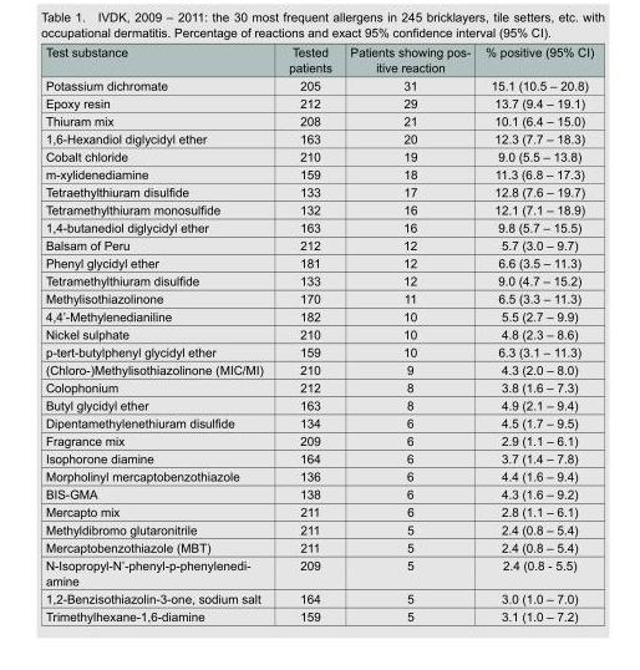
<table><thead><tr><td>Test substance</td><td>Tested patients</td><td>Patients showing pos- itive reaction</td><td>% positive (95% CI)</td></tr></thead><tbody><tr><td>Potassium dichromate</td><td>205</td><td>31</td><td>15.1 (10.5 – 20.8)</td></tr><tr><td>Epoxy resin</td><td>212</td><td>29</td><td>13.7 (9.4 – 19.1)</td></tr><tr><td>Thiuram mix</td><td>208</td><td>21</td><td>10.1 (6.4 – 15.0)</td></tr><tr><td>1,6-Hexandiol diglycidyl ether</td><td>163</td><td>20</td><td>12.3 (7.7 – 18.3)</td></tr><tr><td>Cobalt chloride</td><td>210</td><td>19</td><td>9.0 (5.5 – 13.8)</td></tr><tr><td>m-xylidenediamine</td><td>159</td><td>18</td><td>11.3 (6.8 – 17.3)</td></tr><tr><td>Tetraethylthiuram disulfide</td><td>133</td><td>17</td><td>12.8 (7.6 – 19.7)</td></tr><tr><td>Tetramethylthiuram monosulfide</td><td>132</td><td>16</td><td>12.1 (7.1 – 18.9)</td></tr><tr><td>1,4-butanediol diglycidyl ether</td><td>163</td><td>16</td><td>9.8 (5.7 – 15.5)</td></tr><tr><td>Balsam of Peru</td><td>212</td><td>12</td><td>5.7 (3.0 – 9.7)</td></tr><tr><td>Phenyl glycidyl ether</td><td>181</td><td>12</td><td>6.6 (3.5 – 11.3)</td></tr><tr><td>Tetramethylthiuram disulfide</td><td>133</td><td>12</td><td>9.0 (4.7 – 15.2)</td></tr><tr><td>Methylisothiazolinone</td><td>170</td><td>11</td><td>6.5 (3.3 – 11.3)</td></tr><tr><td>4,4’-Methylenedianiline</td><td>182</td><td>10</td><td>5.5 (2.7 – 9.9)</td></tr><tr><td>Nickel sulphate</td><td>210</td><td>10</td><td>4.8 (2.3 – 8.6)</td></tr><tr><td>p-tert-butylphenyl glycidyl ether</td><td>159</td><td>10</td><td>6.3 (3.1 – 11.3)</td></tr><tr><td>(Chloro-)Methylisothiazolinone (MIC/MI)</td><td>210</td><td>9</td><td>4.3 (2.0 – 8.0)</td></tr><tr><td>Colophonium</td><td>212</td><td>8</td><td>3.8 (1.6 – 7.3)</td></tr><tr><td>Butyl glycidyl ether</td><td>163</td><td>8</td><td>4.9 (2.1 – 9.4)</td></tr><tr><td>Dipentamethylenethiuram disulfide</td><td>134</td><td>6</td><td>4.5 (1.7 – 9.5)</td></tr><tr><td>Fragrance mix</td><td>209</td><td>6</td><td>2.9 (1.1 – 6.1)</td></tr><tr><td>Isophorone diamine</td><td>164</td><td>6</td><td>3.7 (1.4 – 7.8)</td></tr><tr><td>Morpholinyl mercaptobenzothiazole</td><td>136</td><td>6</td><td>4.4 (1.6 – 9.4)</td></tr><tr><td>BIS-GMA</td><td>138</td><td>6</td><td>4.3 (1.6 – 9.2)</td></tr><tr><td>Mercapto mix</td><td>211</td><td>6</td><td>2.8 (1.1 – 6.1)</td></tr><tr><td>Methyldibromo glutaronitrile</td><td>211</td><td>5</td><td>2.4 (0.8 – 5.4)</td></tr><tr><td>Mercaptobenzothiazole (MBT)</td><td>211</td><td>5</td><td>2.4 (0.8 – 5.4)</td></tr><tr><td>N-Isopropyl-N’-phenyl-p-phenylenedi- amine</td><td>209</td><td>5</td><td>2.4 (0.8 - 5.5)</td></tr><tr><td>1,2-Benzisothiazolin-3-one, sodium salt</td><td>164</td><td>5</td><td>3.0 (1.0 – 7.0)</td></tr><tr><td>Trimethylhexane-1,6-diamine</td><td>159</td><td>5</td><td>3.1 (1.0 – 7.2)</td></tr></tbody></table>